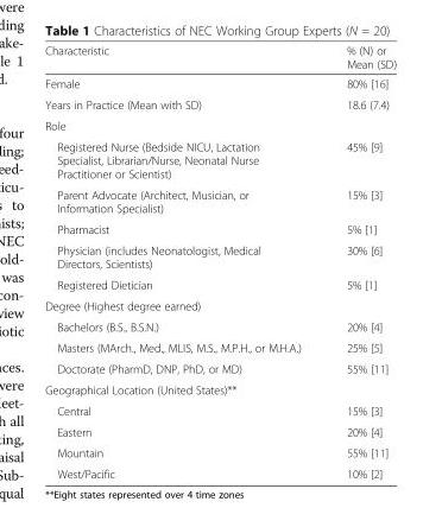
<table><thead><tr><td>Characteristic</td><td>% (N) or Mean (SD)</td></tr></thead><tbody><tr><td>Female</td><td>80% [16]</td></tr><tr><td>Years in Practice (Mean with SD)</td><td>18.6 (7.4)</td></tr><tr><td colspan="2">Role</td></tr><tr><td>Registered Nurse (Bedside NICU, Lactation Specialist, Librarian/Nurse, Neonatal Nurse Practitioner or Scientist)</td><td>45% [9]</td></tr><tr><td>Parent Advocate (Architect, Musician, or Information Specialist)</td><td>15% [3]</td></tr><tr><td>Pharmacist</td><td>5% [1]</td></tr><tr><td>Physician (includes Neonatologist, Medical Directors, Scientists)</td><td>30% [6]</td></tr><tr><td>Registered Dietician</td><td>5% [1]</td></tr><tr><td colspan="2">Degree (Highest degree earned)</td></tr><tr><td>Bachelors (B.S., B.S.N.)</td><td>20% [4]</td></tr><tr><td>Masters (MArch., Med., MLIS, M.S., M.P.H., or M.H.A.)</td><td>25% [5]</td></tr><tr><td>Doctorate (PharmD, DNP, PhD, or MD)</td><td>55% [11]</td></tr><tr><td colspan="2">Geographical Location (United States)**</td></tr><tr><td>Central</td><td>15% [3]</td></tr><tr><td>Eastern</td><td>20% [4]</td></tr><tr><td>Mountain</td><td>55% [11]</td></tr><tr><td>West/Pacific</td><td>10% [2]</td></tr></tbody></table>